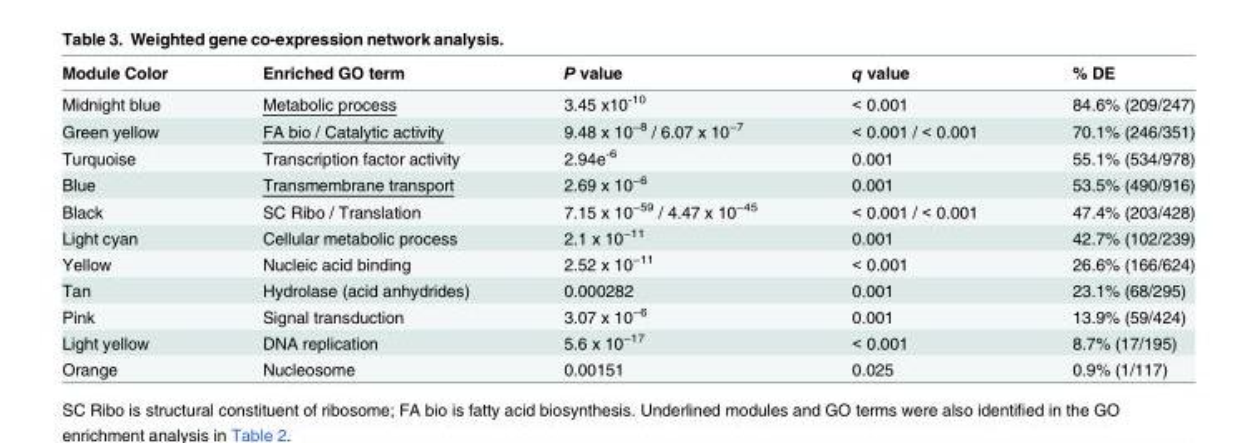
<table><thead><tr><td>Module Color</td><td>Enriched GO term</td><td>P value</td><td>q value</td><td>% DE</td></tr></thead><tbody><tr><td>Midnight blue</td><td>Metabolic process</td><td>3.45 x10<sup>-10</sup></td><td>&lt; 0.001</td><td>84.6% (209/247)</td></tr><tr><td>Green yellow</td><td>FA bio / Catalytic activity</td><td>9.48 x 10<sup>−8</sup> / 6.07 x 10<sup>−7</sup></td><td>&lt; 0.001 / &lt; 0.001</td><td>70.1% (246/351)</td></tr><tr><td>Turquoise</td><td>Transcription factor activity</td><td>2.94e<sup>-6</sup></td><td>0.001</td><td>55.1% (534/978)</td></tr><tr><td>Blue</td><td>Transmembrane transport</td><td>2.69 x 10<sup>−6</sup></td><td>0.001</td><td>53.5% (490/916)</td></tr><tr><td>Black</td><td>SC Ribo / Translation</td><td>7.15 x 10<sup>−59</sup> / 4.47 x 10<sup>−45</sup></td><td>&lt; 0.001 / &lt; 0.001</td><td>47.4% (203/428)</td></tr><tr><td>Light cyan</td><td>Cellular metabolic process</td><td>2.1 x 10<sup>−11</sup></td><td>0.001</td><td>42.7% (102/239)</td></tr><tr><td>Yellow</td><td>Nucleic acid binding</td><td>2.52 x 10<sup>−11</sup></td><td>&lt; 0.001</td><td>26.6% (166/624)</td></tr><tr><td>Tan</td><td>Hydrolase (acid anhydrides)</td><td>0.000282</td><td>0.001</td><td>23.1% (68/295)</td></tr><tr><td>Pink</td><td>Signal transduction</td><td>3.07 x 10<sup>−6</sup></td><td>0.001</td><td>13.9% (59/424)</td></tr><tr><td>Light yellow</td><td>DNA replication</td><td>5.6 x 10<sup>−17</sup></td><td>&lt; 0.001</td><td>8.7% (17/195)</td></tr><tr><td>Orange</td><td>Nucleosome</td><td>0.00151</td><td>0.025</td><td>0.9% (1/117)</td></tr></tbody></table>